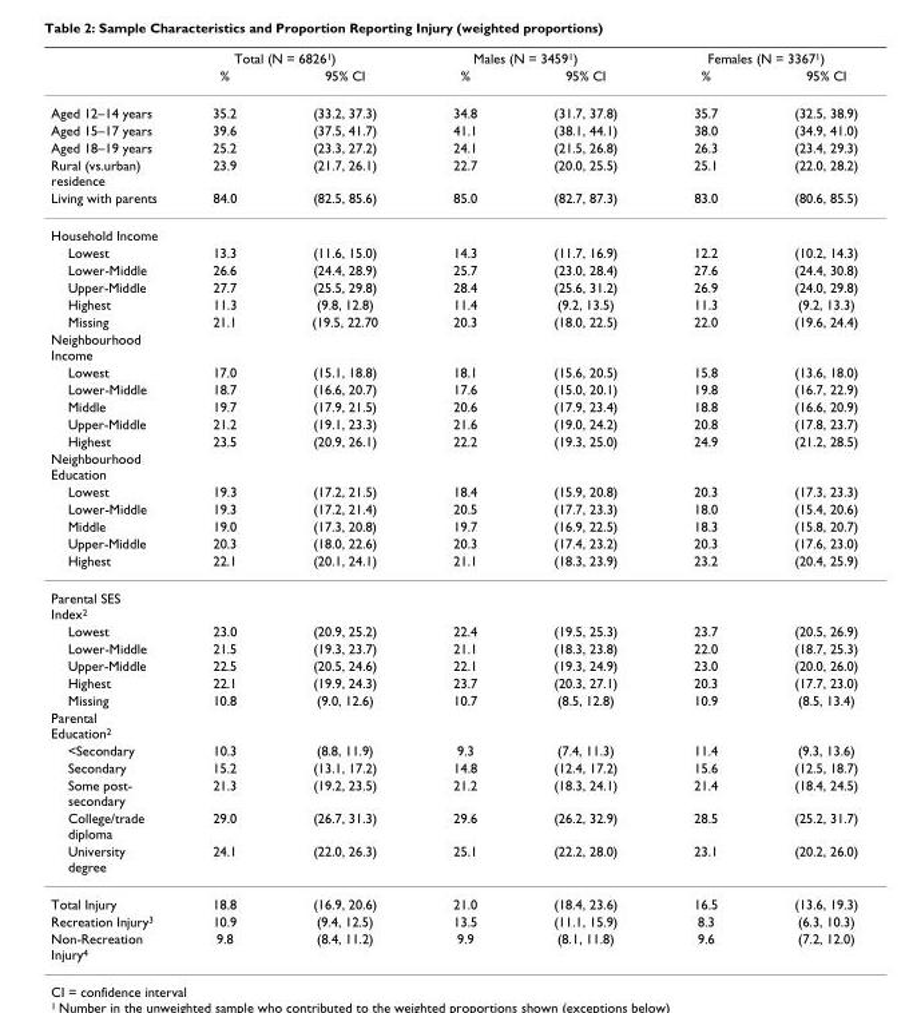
<table><thead><tr><td rowspan="2"></td><td colspan="2">Total (N = 6826<sup>1</sup>)</td><td colspan="2">Males (N = 3459<sup>1</sup>)</td><td colspan="2">Females (N = 3367<sup>1</sup>)</td></tr><tr><td>%</td><td>95% CI</td><td>%</td><td>95% CI</td><td>%</td><td>95% CI</td></tr></thead><tbody><tr><td>Aged 12–14 years</td><td>35.2</td><td>(33.2, 37.3)</td><td>34.8</td><td>(31.7, 37.8)</td><td>35.7</td><td>(32.5, 38.9)</td></tr><tr><td>Aged 15–17 years</td><td>39.6</td><td>(37.5, 41.7)</td><td>41.1</td><td>(38.1, 44.1)</td><td>38.0</td><td>(34.9, 41.0)</td></tr><tr><td>Aged 18–19 years</td><td>25.2</td><td>(23.3, 27.2)</td><td>24.1</td><td>(21.5, 26.8)</td><td>26.3</td><td>(23.4, 29.3)</td></tr><tr><td>Rural (vs.urban) residence</td><td>23.9</td><td>(21.7, 26.1)</td><td>22.7</td><td>(20.0, 25.5)</td><td>25.1</td><td>(22.0, 28.2)</td></tr><tr><td>Living with parents</td><td>84.0</td><td>(82.5, 85.6)</td><td>85.0</td><td>(82.7, 87.3)</td><td>83.0</td><td>(80.6, 85.5)</td></tr><tr><td colspan="7">Household Income</td></tr><tr><td>Lowest</td><td>13.3</td><td>(11.6, 15.0)</td><td>14.3</td><td>(11.7, 16.9)</td><td>12.2</td><td>(10.2, 14.3)</td></tr><tr><td>Lower-Middle</td><td>26.6</td><td>(24.4, 28.9)</td><td>25.7</td><td>(23.0, 28.4)</td><td>27.6</td><td>(24.4, 30.8)</td></tr><tr><td>Upper-Middle</td><td>27.7</td><td>(25.5, 29.8)</td><td>28.4</td><td>(25.6, 31.2)</td><td>26.9</td><td>(24.0, 29.8)</td></tr><tr><td>Highest</td><td>11.3</td><td>(9.8, 12.8)</td><td>11.4</td><td>(9.2, 13.5)</td><td>11.3</td><td>(9.2, 13.3)</td></tr><tr><td>Missing</td><td>21.1</td><td>(19.5, 22.70</td><td>20.3</td><td>(18.0, 22.5)</td><td>22.0</td><td>(19.6, 24.4)</td></tr><tr><td colspan="7">Neighbourhood Income</td></tr><tr><td>Lowest</td><td>17.0</td><td>(15.1, 18.8)</td><td>18.1</td><td>(15.6, 20.5)</td><td>15.8</td><td>(13.6, 18.0)</td></tr><tr><td>Lower-Middle</td><td>18.7</td><td>(16.6, 20.7)</td><td>17.6</td><td>(15.0, 20.1)</td><td>19.8</td><td>(16.7, 22.9)</td></tr><tr><td>Middle</td><td>19.7</td><td>(17.9, 21.5)</td><td>20.6</td><td>(17.9, 23.4)</td><td>18.8</td><td>(16.6, 20.9)</td></tr><tr><td>Upper-Middle</td><td>21.2</td><td>(19.1, 23.3)</td><td>21.6</td><td>(19.0, 24.2)</td><td>20.8</td><td>(17.8, 23.7)</td></tr><tr><td>Highest</td><td>23.5</td><td>(20.9, 26.1)</td><td>22.2</td><td>(19.3, 25.0)</td><td>24.9</td><td>(21.2, 28.5)</td></tr><tr><td colspan="7">Neighbourhood Education</td></tr><tr><td>Lowest</td><td>19.3</td><td>(17.2, 21.5)</td><td>18.4</td><td>(15.9, 20.8)</td><td>20.3</td><td>(17.3, 23.3)</td></tr><tr><td>Lower-Middle</td><td>19.3</td><td>(17.2, 21.4)</td><td>20.5</td><td>(17.7, 23.3)</td><td>18.0</td><td>(15.4, 20.6)</td></tr><tr><td>Middle</td><td>19.0</td><td>(17.3, 20.8)</td><td>19.7</td><td>(16.9, 22.5)</td><td>18.3</td><td>(15.8, 20.7)</td></tr><tr><td>Upper-Middle</td><td>20.3</td><td>(18.0, 22.6)</td><td>20.3</td><td>(17.4, 23.2)</td><td>20.3</td><td>(17.6, 23.0)</td></tr><tr><td>Highest</td><td>22.1</td><td>(20.1, 24.1)</td><td>21.1</td><td>(18.3, 23.9)</td><td>23.2</td><td>(20.4, 25.9)</td></tr><tr><td colspan="7">Parental SES Index<sup>2</sup></td></tr><tr><td>Lowest</td><td>23.0</td><td>(20.9, 25.2)</td><td>22.4</td><td>(19.5, 25.3)</td><td>23.7</td><td>(20.5, 26.9)</td></tr><tr><td>Lower-Middle</td><td>21.5</td><td>(19.3, 23.7)</td><td>21.1</td><td>(18.3, 23.8)</td><td>22.0</td><td>(18.7, 25.3)</td></tr><tr><td>Upper-Middle</td><td>22.5</td><td>(20.5, 24.6)</td><td>22.1</td><td>(19.3, 24.9)</td><td>23.0</td><td>(20.0, 26.0)</td></tr><tr><td>Highest</td><td>22.1</td><td>(19.9, 24.3)</td><td>23.7</td><td>(20.3, 27.1)</td><td>20.3</td><td>(17.7, 23.0)</td></tr><tr><td>Missing</td><td>10.8</td><td>(9.0, 12.6)</td><td>10.7</td><td>(8.5, 12.8)</td><td>10.9</td><td>(8.5, 13.4)</td></tr><tr><td colspan="7">Parental Education<sup>2</sup></td></tr><tr><td>&lt;Secondary</td><td>10.3</td><td>(8.8, 11.9)</td><td>9.3</td><td>(7.4, 11.3)</td><td>11.4</td><td>(9.3, 13.6)</td></tr><tr><td>Secondary</td><td>15.2</td><td>(13.1, 17.2)</td><td>14.8</td><td>(12.4, 17.2)</td><td>15.6</td><td>(12.5, 18.7)</td></tr><tr><td>Some post- secondary</td><td>21.3</td><td>(19.2, 23.5)</td><td>21.2</td><td>(18.3, 24.1)</td><td>21.4</td><td>(18.4, 24.5)</td></tr><tr><td>College/trade diploma</td><td>29.0</td><td>(26.7, 31.3)</td><td>29.6</td><td>(26.2, 32.9)</td><td>28.5</td><td>(25.2, 31.7)</td></tr><tr><td>University degree</td><td>24.1</td><td>(22.0, 26.3)</td><td>25.1</td><td>(22.2, 28.0)</td><td>23.1</td><td>(20.2, 26.0)</td></tr><tr><td>Total Injury</td><td>18.8</td><td>(16.9, 20.6)</td><td>21.0</td><td>(18.4, 23.6)</td><td>16.5</td><td>(13.6, 19.3)</td></tr><tr><td>Recreation Injury<sup>3</sup></td><td>10.9</td><td>(9.4, 12.5)</td><td>13.5</td><td>(11.1, 15.9)</td><td>8.3</td><td>(6.3, 10.3)</td></tr><tr><td>Non-Recreation Injury<sup>4</sup></td><td>9.8</td><td>(8.4, 11.2)</td><td>9.9</td><td>(8.1, 11.8)</td><td>9.6</td><td>(7.2, 12.0)</td></tr></tbody></table>